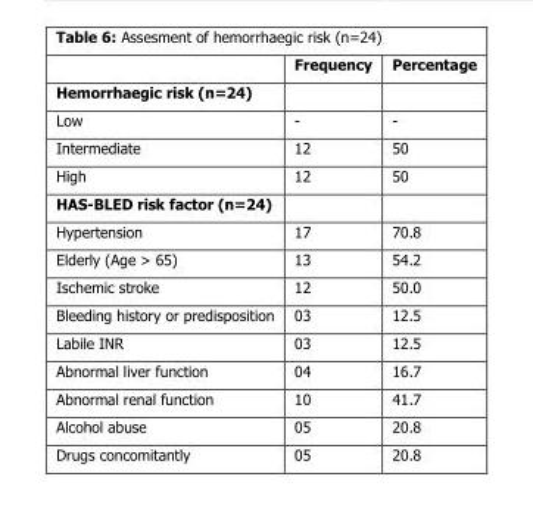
<table><thead><tr><td></td><td>Frequency</td><td>Percentage</td></tr></thead><tbody><tr><td colspan="3">Hemorrhaegic risk (n=24)</td></tr><tr><td>Low</td><td>-</td><td>-</td></tr><tr><td>Intermediate</td><td>12</td><td>50</td></tr><tr><td>High</td><td>12</td><td>50</td></tr><tr><td colspan="3">HAS-BLED risk factor (n=24)</td></tr><tr><td>Hypertension</td><td>17</td><td>70.8</td></tr><tr><td>Elderly (Age &gt; 65)</td><td>13</td><td>54.2</td></tr><tr><td>Ischemic stroke</td><td>12</td><td>50.0</td></tr><tr><td>Bleeding history or predisposition</td><td>03</td><td>12.5</td></tr><tr><td>Labile INR</td><td>03</td><td>12.5</td></tr><tr><td>Abnormal liver function</td><td>04</td><td>16.7</td></tr><tr><td>Abnormal renal function</td><td>10</td><td>41.7</td></tr><tr><td>Alcohol abuse</td><td>05</td><td>20.8</td></tr><tr><td>Drugs concomitantly</td><td>05</td><td>20.8</td></tr></tbody></table>